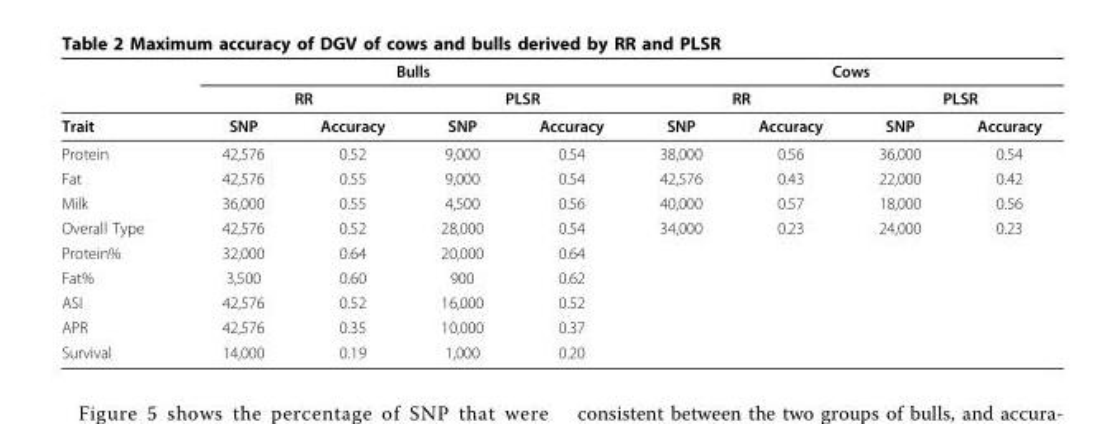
<table><thead><tr><td rowspan="3">Trait</td><td colspan="4">Bulls</td><td colspan="4">Cows</td></tr><tr><td colspan="2">RR</td><td colspan="2">PLSR</td><td colspan="2">RR</td><td colspan="2">PLSR</td></tr><tr><td>SNP</td><td>Accuracy</td><td>SNP</td><td>Accuracy</td><td>SNP</td><td>Accuracy</td><td>SNP</td><td>Accuracy</td></tr></thead><tbody><tr><td>Protein</td><td>42,576</td><td>0.52</td><td>9,000</td><td>0.54</td><td>38,000</td><td>0.56</td><td>36,000</td><td>0.54</td></tr><tr><td>Fat</td><td>42,576</td><td>0.55</td><td>9,000</td><td>0.54</td><td>42,576</td><td>0.43</td><td>22,000</td><td>0.42</td></tr><tr><td>Milk</td><td>36,000</td><td>0.55</td><td>4,500</td><td>0.56</td><td>40,000</td><td>0.57</td><td>18,000</td><td>0.56</td></tr><tr><td>Overall Type</td><td>42,576</td><td>0.52</td><td>28,000</td><td>0.54</td><td>34,000</td><td>0.23</td><td>24,000</td><td>0.23</td></tr><tr><td>Protein%</td><td>32,000</td><td>0.64</td><td>20,000</td><td>0.64</td><td></td><td></td><td></td><td></td></tr><tr><td>Fat%</td><td>3,500</td><td>0.60</td><td>900</td><td>0.62</td><td></td><td></td><td></td><td></td></tr><tr><td>ASI</td><td>42,576</td><td>0.52</td><td>16,000</td><td>0.52</td><td></td><td></td><td></td><td></td></tr><tr><td>APR</td><td>42,576</td><td>0.35</td><td>10,000</td><td>0.37</td><td></td><td></td><td></td><td></td></tr><tr><td>Survival</td><td>14,000</td><td>0.19</td><td>1,000</td><td>0.20</td><td></td><td></td><td></td><td></td></tr></tbody></table>